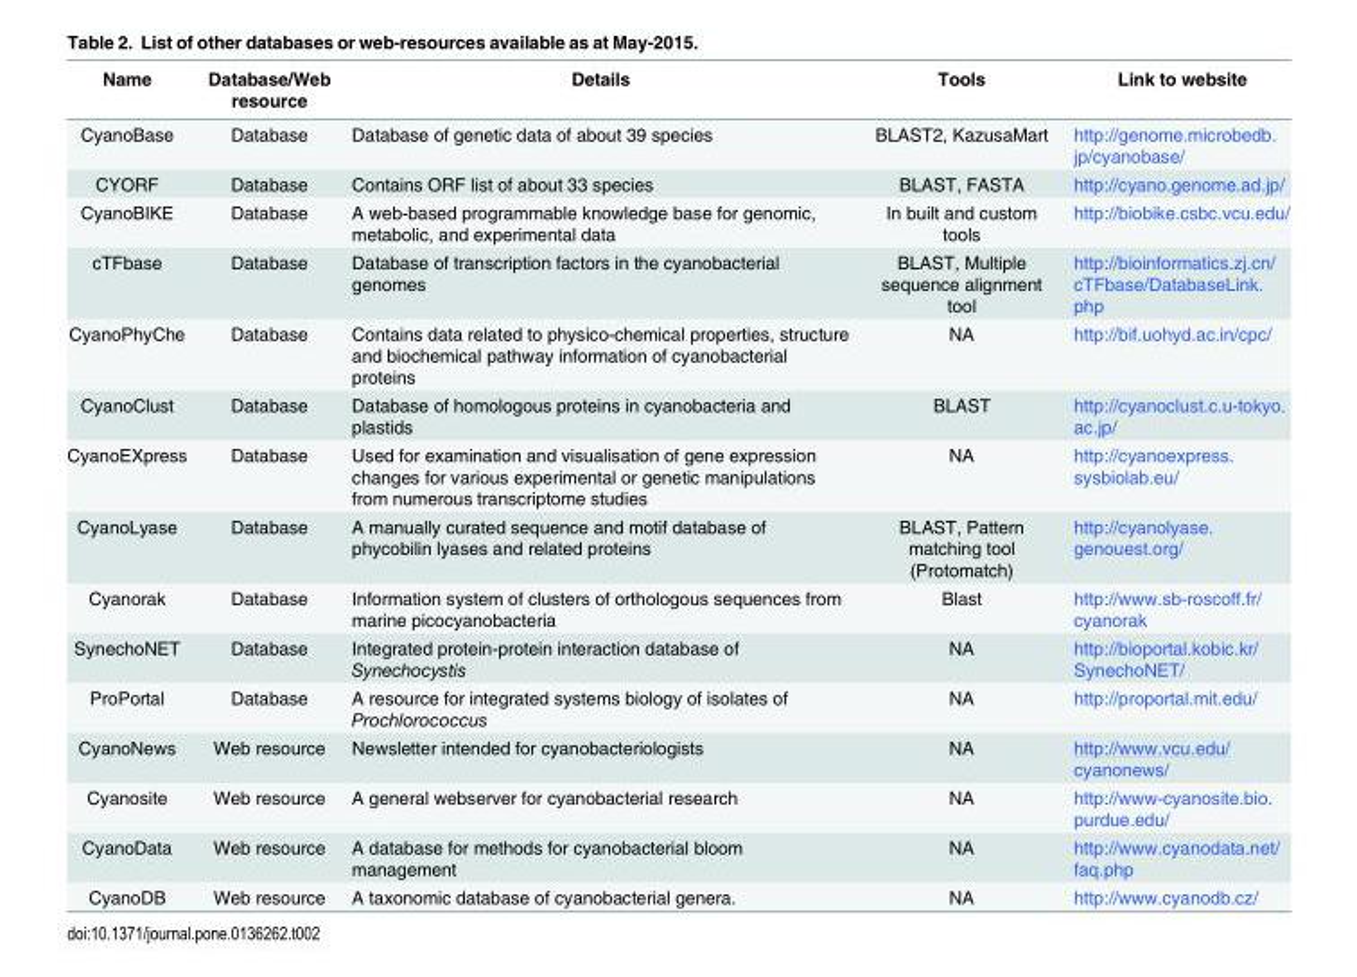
<table><thead><tr><td>Name</td><td>Database/Web resource</td><td>Details</td><td>Tools</td><td>Link to website</td></tr></thead><tbody><tr><td>CyanoBase</td><td>Database</td><td>Database of genetic data of about 39 species</td><td>BLAST2, KazusaMart</td><td>http://genome.microbedb. jp/cyanobase/</td></tr><tr><td>CYORF</td><td>Database</td><td>Contains ORF list of about 33 species</td><td>BLAST, FASTA</td><td>http://cyano.genome.ad.jp/</td></tr><tr><td>CyanoBIKE</td><td>Database</td><td>A web-based programmable knowledge base for genomic, metabolic, and experimental data</td><td>In built and custom tools</td><td>http://biobike.csbc.vcu.edu/</td></tr><tr><td>cTFbase</td><td>Database</td><td>Database of transcription factors in the cyanobacterial genomes</td><td>BLAST, Multiple sequence alignment tool</td><td>http://bioinformatics.zj.cn/ cTFbase/DatabaseLink. php</td></tr><tr><td>CyanoPhyChe</td><td>Database</td><td>Contains data related to physico-chemical properties, structure and biochemical pathway information of cyanobacterial proteins</td><td>NA</td><td>http://bif.uohyd.ac.in/cpc/</td></tr><tr><td>CyanoClust</td><td>Database</td><td>Database of homologous proteins in cyanobacteria and plastids</td><td>BLAST</td><td>http://cyanoclust.c.u-tokyo. ac.jp/</td></tr><tr><td>CyanoEXpress</td><td>Database</td><td>Used for examination and visualisation of gene expression changes for various experimental or genetic manipulations from numerous transcriptome studies</td><td>NA</td><td>http://cyanoexpress. sysbiolab.eu/</td></tr><tr><td>CyanoLyase</td><td>Database</td><td>A manually curated sequence and motif database of phycobilin lyases and related proteins</td><td>BLAST, Pattern matching tool (Protomatch)</td><td>http://cyanolyase. genouest.org/</td></tr><tr><td>Cyanorak</td><td>Database</td><td>Information system of clusters of orthologous sequences from marine picocyanobacteria</td><td>Blast</td><td>http://www.sb-roscoff.fr/ cyanorak</td></tr><tr><td>SynechoNET</td><td>Database</td><td>Integrated protein-protein interaction database of Synechocystis</td><td>NA</td><td>http://bioportal.kobic.kr/ SynechoNET/</td></tr><tr><td>ProPortal</td><td>Database</td><td>A resource for integrated systems biology of isolates of Prochlorococcus</td><td>NA</td><td>http://proportal.mit.edu/</td></tr><tr><td>CyanoNews</td><td>Web resource</td><td>Newsletter intended for cyanobacteriologists</td><td>NA</td><td>http://www.vcu.edu/ cyanonews/</td></tr><tr><td>Cyanosite</td><td>Web resource</td><td>A general webserver for cyanobacterial research</td><td>NA</td><td>http://www-cyanosite.bio. purdue.edu/</td></tr><tr><td>CyanoData</td><td>Web resource</td><td>A database for methods for cyanobacterial bloom management</td><td>NA</td><td>http://www.cyanodata.net/ faq.php</td></tr><tr><td>CyanoDB</td><td>Web resource</td><td>A taxonomic database of cyanobacterial genera.</td><td>NA</td><td>http://www.cyanodb.cz/</td></tr></tbody></table>